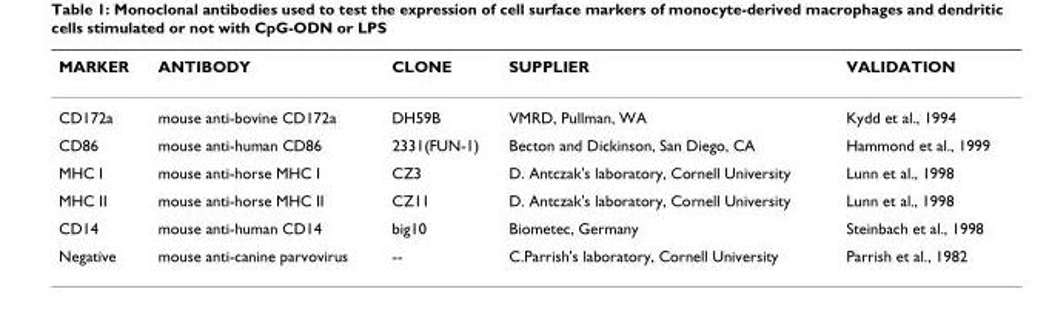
<table><thead><tr><td>MARKER</td><td>ANTIBODY</td><td>CLONE</td><td>SUPPLIER</td><td>VALIDATION</td></tr></thead><tbody><tr><td>CD172a</td><td>mouse anti-bovine CD172a</td><td>DH59B</td><td>VMRD, Pullman, WA</td><td>Kydd et al., 1994</td></tr><tr><td>CD86</td><td>mouse anti-human CD86</td><td>2331(FUN-1)</td><td>Becton and Dickinson, San Diego, CA</td><td>Hammond et al., 1999</td></tr><tr><td>MHC I</td><td>mouse anti-horse MHC I</td><td>CZ3</td><td>D. Antczak&#x27;s laboratory, Cornell University</td><td>Lunn et al., 1998</td></tr><tr><td>MHC II</td><td>mouse anti-horse MHC II</td><td>CZ11</td><td>D. Antczak&#x27;s laboratory, Cornell University</td><td>Lunn et al., 1998</td></tr><tr><td>CD14</td><td>mouse anti-human CD14</td><td>big10</td><td>Biometec, Germany</td><td>Steinbach et al., 1998</td></tr><tr><td>Negative</td><td>mouse anti-canine parvovirus</td><td>--</td><td>C.Parrish&#x27;s laboratory, Cornell University</td><td>Parrish et al., 1982</td></tr></tbody></table>